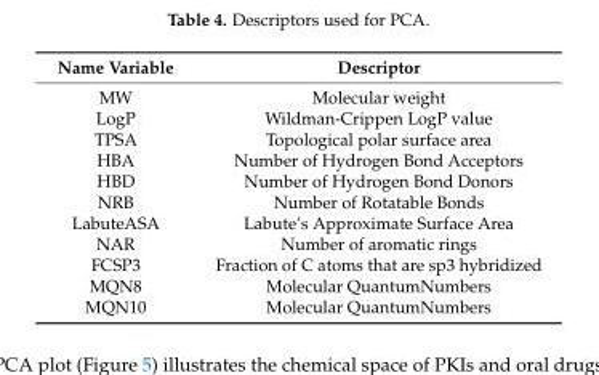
<table><thead><tr><td>Name Variable</td><td>Descriptor</td></tr></thead><tbody><tr><td>MW</td><td>Molecular weight</td></tr><tr><td>LogP</td><td>Wildman-Crippen LogP value</td></tr><tr><td>TPSA</td><td>Topological polar surface area</td></tr><tr><td>HBA</td><td>Number of Hydrogen Bond Acceptors</td></tr><tr><td>HBD</td><td>Number of Hydrogen Bond Donors</td></tr><tr><td>NRB</td><td>Number of Rotatable Bonds</td></tr><tr><td>LabuteASA</td><td>Labute’s Approximate Surface Area</td></tr><tr><td>NAR</td><td>Number of aromatic rings</td></tr><tr><td>FCSP3</td><td>Fraction of C atoms that are sp3 hybridized</td></tr><tr><td>MQN8</td><td>Molecular QuantumNumbers</td></tr><tr><td>MQN10</td><td>Molecular QuantumNumbers</td></tr></tbody></table>